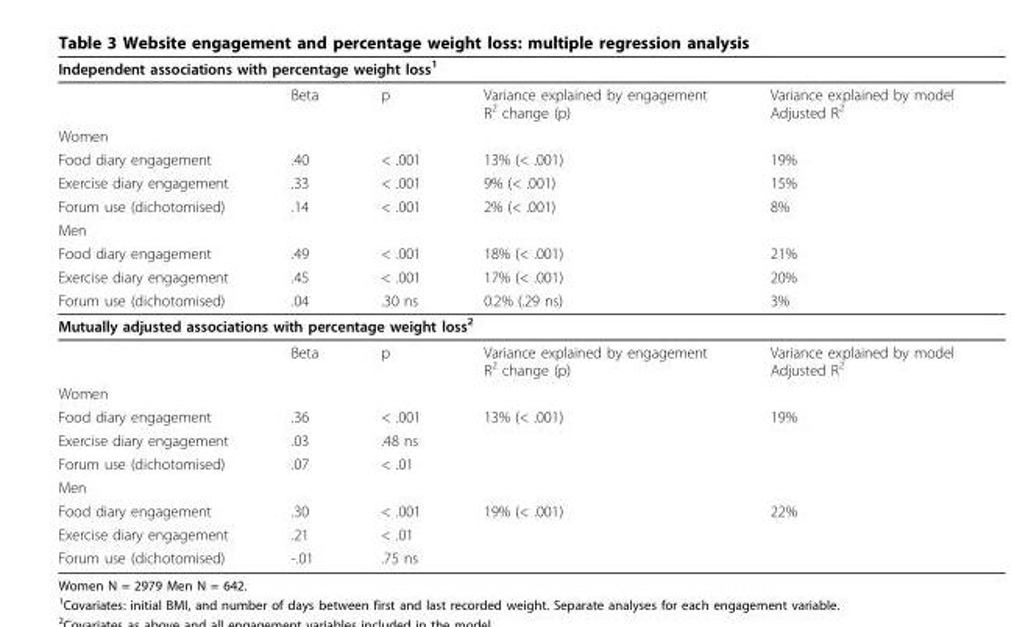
<table><thead><tr><td colspan="5">Independent associations with percentage weight loss<sup>1</sup></td></tr><tr><td></td><td>Beta</td><td>p</td><td>Variance explained by engagement R<sup>2</sup> change (p)</td><td>Variance explained by model Adjusted R<sup>2</sup></td></tr></thead><tbody><tr><td colspan="5">Women</td></tr><tr><td>Food diary engagement</td><td>.40</td><td>&lt; .001</td><td>13% (&lt; .001)</td><td>19%</td></tr><tr><td>Exercise diary engagement</td><td>.33</td><td>&lt; .001</td><td>9% (&lt; .001)</td><td>15%</td></tr><tr><td>Forum use (dichotomised)</td><td>.14</td><td>&lt; .001</td><td>2% (&lt; .001)</td><td>8%</td></tr><tr><td colspan="5">Men</td></tr><tr><td>Food diary engagement</td><td>.49</td><td>&lt; .001</td><td>18% (&lt; .001)</td><td>21%</td></tr><tr><td>Exercise diary engagement</td><td>.45</td><td>&lt; .001</td><td>17% (&lt; .001)</td><td>20%</td></tr><tr><td>Forum use (dichotomised)</td><td>.04</td><td>.30 ns</td><td>0.2% (.29 ns)</td><td>3%</td></tr><tr><td colspan="5">Mutually adjusted associations with percentage weight loss<sup>2</sup></td></tr><tr><td></td><td>Beta</td><td>p</td><td>Variance explained by engagement R<sup>2</sup> change (p)</td><td>Variance explained by model Adjusted R<sup>2</sup></td></tr><tr><td colspan="5">Women</td></tr><tr><td>Food diary engagement</td><td>.36</td><td>&lt; .001</td><td>13% (&lt; .001)</td><td>19%</td></tr><tr><td>Exercise diary engagement</td><td>.03</td><td>.48 ns</td><td></td><td></td></tr><tr><td>Forum use (dichotomised)</td><td>.07</td><td>&lt; .01</td><td></td><td></td></tr><tr><td colspan="5">Men</td></tr><tr><td>Food diary engagement</td><td>.30</td><td>&lt; .001</td><td>19% (&lt; .001)</td><td>22%</td></tr><tr><td>Exercise diary engagement</td><td>.21</td><td>&lt; .01</td><td></td><td></td></tr><tr><td>Forum use (dichotomised)</td><td>-.01</td><td>.75 ns</td><td></td><td></td></tr></tbody></table>